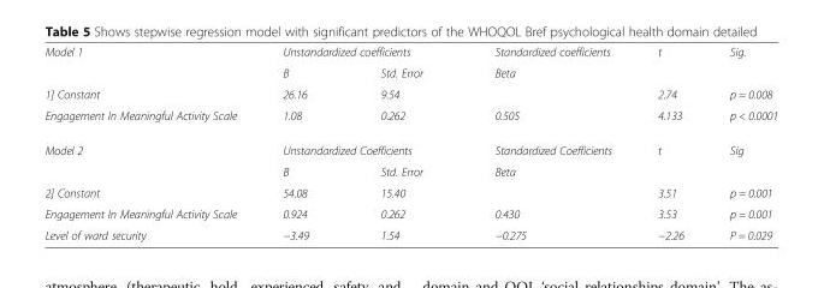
<table><tbody><tr><td rowspan="2">Model 1</td><td colspan="2">Unstandardized coefficients</td><td>Standardized coefficients</td><td>t</td><td>Sig.</td></tr><tr><td>B</td><td>Std. Error</td><td>Beta</td><td></td><td></td></tr><tr><td>1] Constant</td><td>26.16</td><td>9.54</td><td></td><td>2.74</td><td>p = 0.008</td></tr><tr><td>Engagement In Meaningful Activity Scale</td><td>1.08</td><td>0.262</td><td>0.505</td><td>4.133</td><td>p &lt; 0.0001</td></tr><tr><td rowspan="2">Model 2</td><td colspan="2">Unstandardized Coefficients</td><td>Standardized Coefficients</td><td>t</td><td>Sig</td></tr><tr><td>B</td><td>Std. Error</td><td>Beta</td><td></td><td></td></tr><tr><td>2] Constant</td><td>54.08</td><td>15.40</td><td></td><td>3.51</td><td>p = 0.001</td></tr><tr><td>Engagement In Meaningful Activity Scale</td><td>0.924</td><td>0.262</td><td>0.430</td><td>3.53</td><td>p = 0.001</td></tr><tr><td>Level of ward security</td><td>−3.49</td><td>1.54</td><td>−0.275</td><td>−2.26</td><td>P = 0.029</td></tr></tbody></table>